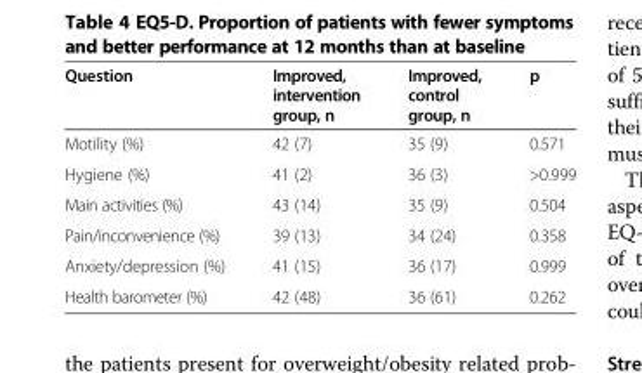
<table><thead><tr><td>Question</td><td>Improved, intervention group, n</td><td>Improved, control group, n</td><td>p</td></tr></thead><tbody><tr><td>Motility (%)</td><td>42 (7)</td><td>35 (9)</td><td>0.571</td></tr><tr><td>Hygiene (%)</td><td>41 (2)</td><td>36 (3)</td><td>&gt;0.999</td></tr><tr><td>Main activities (%)</td><td>43 (14)</td><td>35 (9)</td><td>0.504</td></tr><tr><td>Pain/inconvenience (%)</td><td>39 (13)</td><td>34 (24)</td><td>0.358</td></tr><tr><td>Anxiety/depression (%)</td><td>41 (15)</td><td>36 (17)</td><td>0.999</td></tr><tr><td>Health barometer (%)</td><td>42 (48)</td><td>36 (61)</td><td>0.262</td></tr></tbody></table>